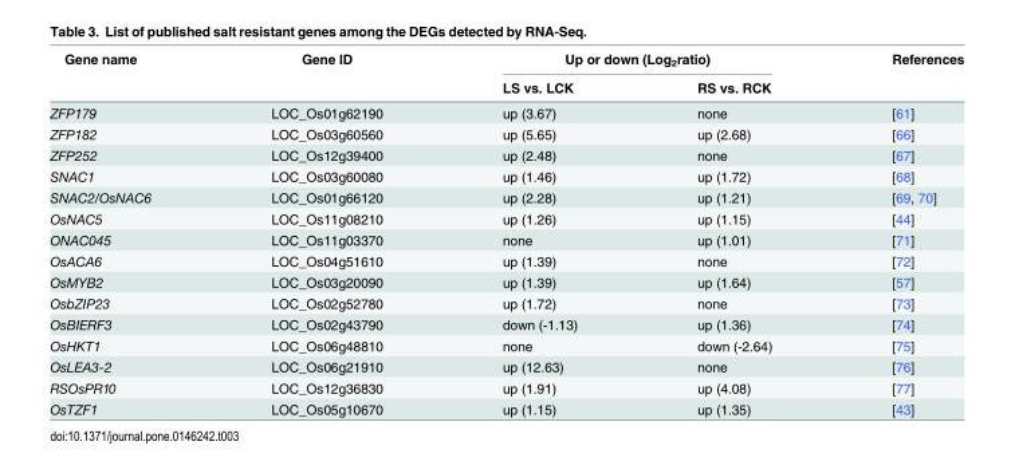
<table><thead><tr><td rowspan="2">Gene name</td><td rowspan="2">Gene ID</td><td colspan="2">Up or down (Log<sub>2</sub>ratio)</td><td rowspan="2">References</td></tr><tr><td>LS vs. LCK</td><td>RS vs. RCK</td></tr></thead><tbody><tr><td>ZFP179</td><td>LOC_Os01g62190</td><td>up (3.67)</td><td>none</td><td>[61]</td></tr><tr><td>ZFP182</td><td>LOC_Os03g60560</td><td>up (5.65)</td><td>up (2.68)</td><td>[66]</td></tr><tr><td>ZFP252</td><td>LOC_Os12g39400</td><td>up (2.48)</td><td>none</td><td>[67]</td></tr><tr><td>SNAC1</td><td>LOC_Os03g60080</td><td>up (1.46)</td><td>up (1.72)</td><td>[68]</td></tr><tr><td>SNAC2/OsNAC6</td><td>LOC_Os01g66120</td><td>up (2.28)</td><td>up (1.21)</td><td>[69, 70]</td></tr><tr><td>OsNAC5</td><td>LOC_Os11g08210</td><td>up (1.26)</td><td>up (1.15)</td><td>[44]</td></tr><tr><td>ONAC045</td><td>LOC_Os11g03370</td><td>none</td><td>up (1.01)</td><td>[71]</td></tr><tr><td>OsACA6</td><td>LOC_Os04g51610</td><td>up (1.39)</td><td>none</td><td>[72]</td></tr><tr><td>OsMYB2</td><td>LOC_Os03g20090</td><td>up (1.39)</td><td>up (1.64)</td><td>[57]</td></tr><tr><td>OsbZIP23</td><td>LOC_Os02g52780</td><td>up (1.72)</td><td>none</td><td>[73]</td></tr><tr><td>OsBIERF3</td><td>LOC_Os02g43790</td><td>down (-1.13)</td><td>up (1.36)</td><td>[74]</td></tr><tr><td>OsHKT1</td><td>LOC_Os06g48810</td><td>none</td><td>down (-2.64)</td><td>[75]</td></tr><tr><td>OsLEA3-2</td><td>LOC_Os06g21910</td><td>up (12.63)</td><td>none</td><td>[76]</td></tr><tr><td>RSOsPR10</td><td>LOC_Os12g36830</td><td>up (1.91)</td><td>up (4.08)</td><td>[77]</td></tr><tr><td>OsTZF1</td><td>LOC_Os05g10670</td><td>up (1.15)</td><td>up (1.35)</td><td>[43]</td></tr></tbody></table>